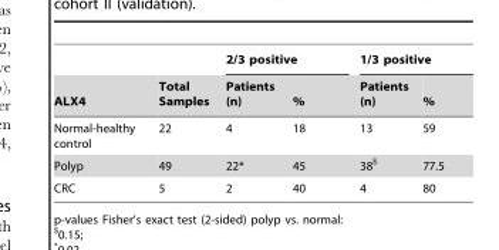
<table><thead><tr><td rowspan="2">ALX4</td><td rowspan="2">Total Samples</td><td colspan="2">2/3 positive</td><td colspan="2">1/3 positive</td></tr><tr><td>Patients (n)</td><td>%</td><td>Patients (n)</td><td>%</td></tr></thead><tbody><tr><td>Normal-healthy control</td><td>22</td><td>4</td><td>18</td><td>13</td><td>59</td></tr><tr><td>Polyp</td><td>49</td><td>22*</td><td>45</td><td>38$</td><td>77.5</td></tr><tr><td>CRC</td><td>5</td><td>2</td><td>40</td><td>4</td><td>80</td></tr></tbody></table>